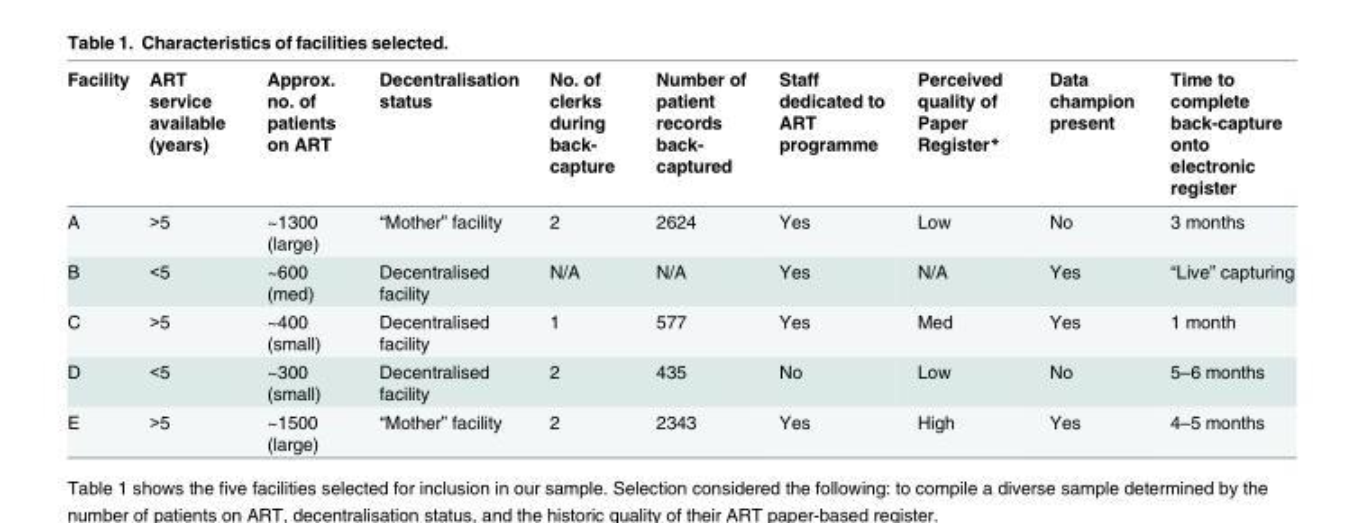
<table><thead><tr><td>Facility</td><td>ART service available (years)</td><td>Approx. no. of patients on ART</td><td>Decentralisation status</td><td>No. of clerks during back- capture</td><td>Number of patient records back- captured</td><td>Staff dedicated to ART programme</td><td>Perceived quality of Paper Register*</td><td>Data champion present</td><td>Time to complete back-capture onto electronic register</td></tr></thead><tbody><tr><td>A</td><td>&gt;5</td><td>~1300 (large)</td><td>“Mother” facility</td><td>2</td><td>2624</td><td>Yes</td><td>Low</td><td>No</td><td>3 months</td></tr><tr><td>B</td><td>&lt;5</td><td>~600 (med)</td><td>Decentralised facility</td><td>N/A</td><td>N/A</td><td>Yes</td><td>N/A</td><td>Yes</td><td>“Live” capturing</td></tr><tr><td>C</td><td>&gt;5</td><td>~400 (small)</td><td>Decentralised facility</td><td>1</td><td>577</td><td>Yes</td><td>Med</td><td>Yes</td><td>1 month</td></tr><tr><td>D</td><td>&lt;5</td><td>~300 (small)</td><td>Decentralised facility</td><td>2</td><td>435</td><td>No</td><td>Low</td><td>No</td><td>5–6 months</td></tr><tr><td>E</td><td>&gt;5</td><td>~1500 (large)</td><td>“Mother” facility</td><td>2</td><td>2343</td><td>Yes</td><td>High</td><td>Yes</td><td>4–5 months</td></tr></tbody></table>